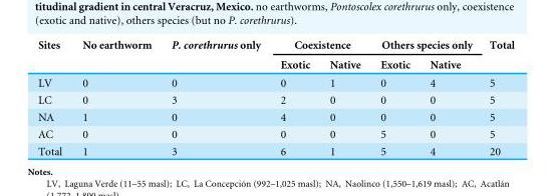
<table><thead><tr><td rowspan="2">Sites</td><td rowspan="2">No earthworm</td><td rowspan="2">P. corethrurus only</td><td colspan="2">Coexistence</td><td colspan="2">Others species only</td><td rowspan="2">Total</td></tr><tr><td>Exotic</td><td>Native</td><td>Exotic</td><td>Native</td></tr></thead><tbody><tr><td>LV</td><td>0</td><td>0</td><td>0</td><td>1</td><td>0</td><td>4</td><td>5</td></tr><tr><td>LC</td><td>0</td><td>3</td><td>2</td><td>0</td><td>0</td><td>0</td><td>5</td></tr><tr><td>NA</td><td>1</td><td>0</td><td>4</td><td>0</td><td>0</td><td>0</td><td>5</td></tr><tr><td>AC</td><td>0</td><td>0</td><td>0</td><td>0</td><td>5</td><td>0</td><td>5</td></tr><tr><td>Total</td><td>1</td><td>3</td><td>6</td><td>1</td><td>5</td><td>4</td><td>20</td></tr></tbody></table>